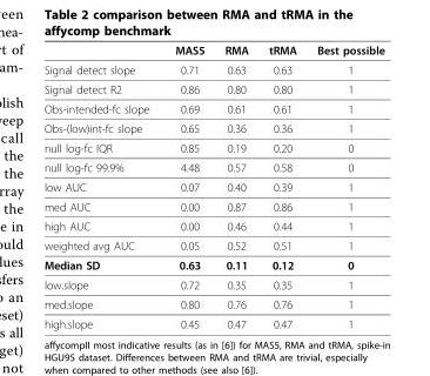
<table><thead><tr><td></td><td>MAS5</td><td>RMA</td><td>tRMA</td><td>Best possible</td></tr></thead><tbody><tr><td>Signal detect slope</td><td>0.71</td><td>0.63</td><td>0.63</td><td>1</td></tr><tr><td>Signal detect R2</td><td>0.86</td><td>0.80</td><td>0.80</td><td>1</td></tr><tr><td>Obs-intended-fc slope</td><td>0.69</td><td>0.61</td><td>0.61</td><td>1</td></tr><tr><td>Obs-(low)int-fc slope</td><td>0.65</td><td>0.36</td><td>0.36</td><td>1</td></tr><tr><td>null log-fc IQR</td><td>0.85</td><td>0.19</td><td>0.20</td><td>0</td></tr><tr><td>null log-fc 99.9%</td><td>4.48</td><td>0.57</td><td>0.58</td><td>0</td></tr><tr><td>low AUC</td><td>0.07</td><td>0.40</td><td>0.39</td><td>1</td></tr><tr><td>med AUC</td><td>0.00</td><td>0.87</td><td>0.86</td><td>1</td></tr><tr><td>high AUC</td><td>0.00</td><td>0.46</td><td>0.44</td><td>1</td></tr><tr><td>weighted avg AUC</td><td>0.05</td><td>0.52</td><td>0.51</td><td>1</td></tr><tr><td>Median SD</td><td>0.63</td><td>0.11</td><td>0.12</td><td>0</td></tr><tr><td>low.slope</td><td>0.72</td><td>0.35</td><td>0.35</td><td>1</td></tr><tr><td>med.slope</td><td>0.80</td><td>0.76</td><td>0.76</td><td>1</td></tr><tr><td>high.slope</td><td>0.45</td><td>0.47</td><td>0.47</td><td>1</td></tr></tbody></table>